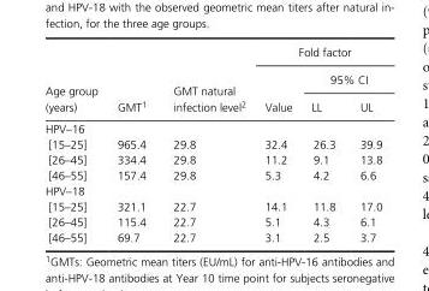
<table><thead><tr><td rowspan="3">Age group (years)</td><td rowspan="3">GMT1</td><td rowspan="3">GMT natural infection level2</td><td colspan="3">Fold factor</td></tr><tr><td rowspan="2">Value</td><td colspan="2">95% CI</td></tr><tr><td>LL</td><td>UL</td></tr></thead><tbody><tr><td colspan="6">HPV–16</td></tr><tr><td>[15–25]</td><td>965.4</td><td>29.8</td><td>32.4</td><td>26.3</td><td>39.9</td></tr><tr><td>[26–45]</td><td>334.4</td><td>29.8</td><td>11.2</td><td>9.1</td><td>13.8</td></tr><tr><td>[46–55]</td><td>157.4</td><td>29.8</td><td>5.3</td><td>4.2</td><td>6.6</td></tr><tr><td colspan="6">HPV–18</td></tr><tr><td>[15–25]</td><td>321.1</td><td>22.7</td><td>14.1</td><td>11.8</td><td>17.0</td></tr><tr><td>[26–45]</td><td>115.4</td><td>22.7</td><td>5.1</td><td>4.3</td><td>6.1</td></tr><tr><td>[46–55]</td><td>69.7</td><td>22.7</td><td>3.1</td><td>2.5</td><td>3.7</td></tr></tbody></table>